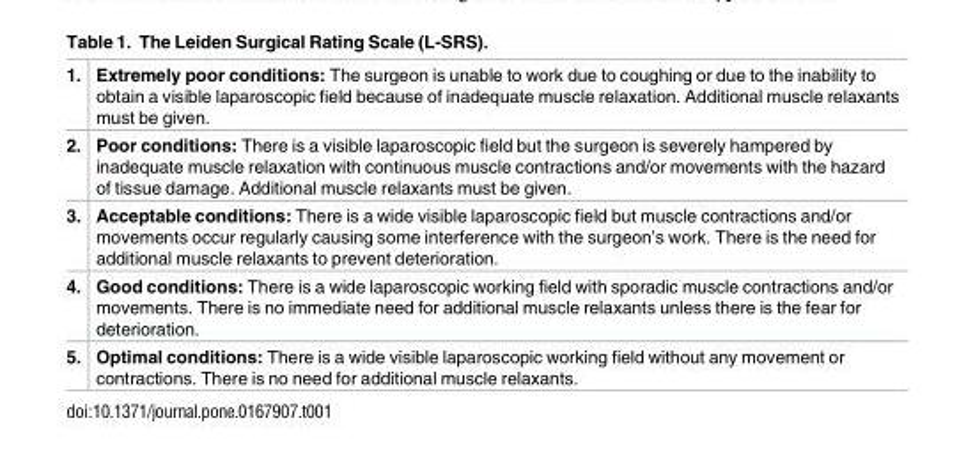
<table><tbody><tr><td>1.</td><td>Extremely poor conditions: The surgeon is unable to work due to coughing or due to the inability to obtain a visible laparoscopic field because of inadequate muscle relaxation. Additional muscle relaxants must be given.</td></tr><tr><td>2.</td><td>Poor conditions: There is a visible laparoscopic field but the surgeon is severely hampered by inadequate muscle relaxation with continuous muscle contractions and/or movements with the hazard of tissue damage. Additional muscle relaxants must be given.</td></tr><tr><td>3.</td><td>Acceptable conditions: There is a wide visible laparoscopic field but muscle contractions and/or movements occur regularly causing some interference with the surgeon’s work. There is the need for additional muscle relaxants to prevent deterioration.</td></tr><tr><td>4.</td><td>Good conditions: There is a wide laparoscopic working field with sporadic muscle contractions and/or movements. There is no immediate need for additional muscle relaxants unless there is the fear for deterioration.</td></tr><tr><td>5.</td><td>Optimal conditions: There is a wide visible laparoscopic working field without any movement or contractions. There is no need for additional muscle relaxants.</td></tr></tbody></table>